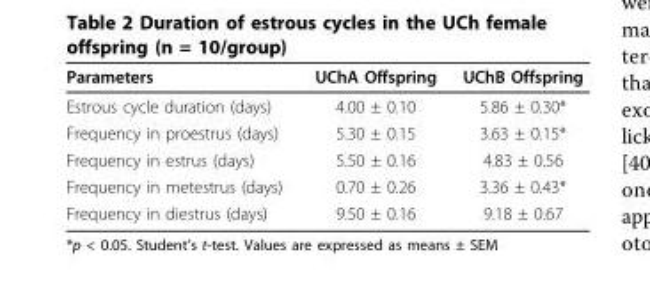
<table><thead><tr><td>Parameters</td><td>UChA Offspring</td><td>UChB Offspring</td></tr></thead><tbody><tr><td>Estrous cycle duration (days)</td><td>4.00 ± 0.10</td><td>5.86 ± 0.30*</td></tr><tr><td>Frequency in proestrus (days)</td><td>5.30 ± 0.15</td><td>3.63 ± 0.15*</td></tr><tr><td>Frequency in estrus (days)</td><td>5.50 ± 0.16</td><td>4.83 ± 0.56</td></tr><tr><td>Frequency in metestrus (days)</td><td>0.70 ± 0.26</td><td>3.36 ± 0.43*</td></tr><tr><td>Frequency in diestrus (days)</td><td>9.50 ± 0.16</td><td>9.18 ± 0.67</td></tr></tbody></table>